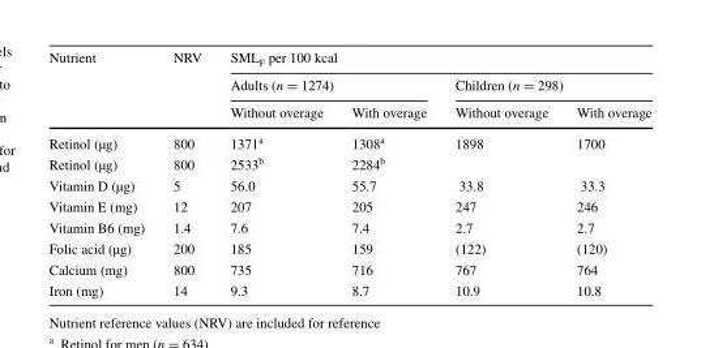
<table><thead><tr><td rowspan="3">Nutrient</td><td rowspan="3">NRV</td><td colspan="4">SML<sub>F</sub> per 100 kcal</td></tr><tr><td colspan="2">Adults (n = 1274)</td><td colspan="2">Children (n = 298)</td></tr><tr><td>Without overage</td><td>With overage</td><td>Without overage</td><td>With overage</td></tr></thead><tbody><tr><td>Retinol (µg)</td><td>800</td><td>1371<sup>a</sup></td><td>1308<sup>a</sup></td><td>1898</td><td>1700</td></tr><tr><td>Retinol (µg)</td><td>800</td><td>2533<sup>b</sup></td><td>2284<sup>b</sup></td><td></td><td></td></tr><tr><td>Vitamin D (µg)</td><td>5</td><td>56.0</td><td>55.7</td><td>33.8</td><td>33.3</td></tr><tr><td>Vitamin E (mg)</td><td>12</td><td>207</td><td>205</td><td>247</td><td>246</td></tr><tr><td>Vitamin B6 (mg)</td><td>1.4</td><td>7.6</td><td>7.4</td><td>2.7</td><td>2.7</td></tr><tr><td>Folic acid (µg)</td><td>200</td><td>185</td><td>159</td><td>(122)</td><td>(120)</td></tr><tr><td>Calcium (mg)</td><td>800</td><td>735</td><td>716</td><td>767</td><td>764</td></tr><tr><td>Iron (mg)</td><td>14</td><td>9.3</td><td>8.7</td><td>10.9</td><td>10.8</td></tr></tbody></table>